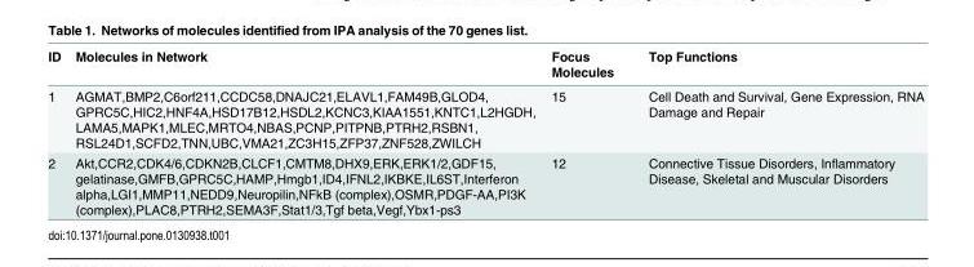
<table><thead><tr><td>ID</td><td>Molecules in Network</td><td>Focus Molecules</td><td>Top Functions</td></tr></thead><tbody><tr><td>1</td><td>AGMAT,BMP2,C6orf211,CCDC58,DNAJC21,ELAVL1,FAM49B,GLOD4, GPRC5C,HIC2,HNF4A,HSD17B12,HSDL2,KCNC3,KIAA1551,KNTC1,L2HGDH, LAMA5,MAPK1,MLEC,MRTO4,NBAS,PCNP,PITPNB,PTRH2,RSBN1, RSL24D1,SCFD2,TNN,UBC,VMA21,ZC3H15,ZFP37,ZNF528,ZWILCH</td><td>15</td><td>Cell Death and Survival, Gene Expression, RNA Damage and Repair</td></tr><tr><td>2</td><td>Akt,CCR2,CDK4/6,CDKN2B,CLCF1,CMTM8,DHX9,ERK,ERK1/2,GDF15, gelatinase,GMFB,GPRC5C,HAMP,Hmgb1,ID4,IFNL2,IKBKE,IL6ST,Interferon alpha,LGI1,MMP11,NEDD9,Neuropilin,NFkB (complex),OSMR,PDGF-AA,PI3K (complex),PLAC8,PTRH2,SEMA3F,Stat1/3,Tgf beta,Vegf,Ybx1-ps3</td><td>12</td><td>Connective Tissue Disorders, Inflammatory Disease, Skeletal and Muscular Disorders</td></tr></tbody></table>